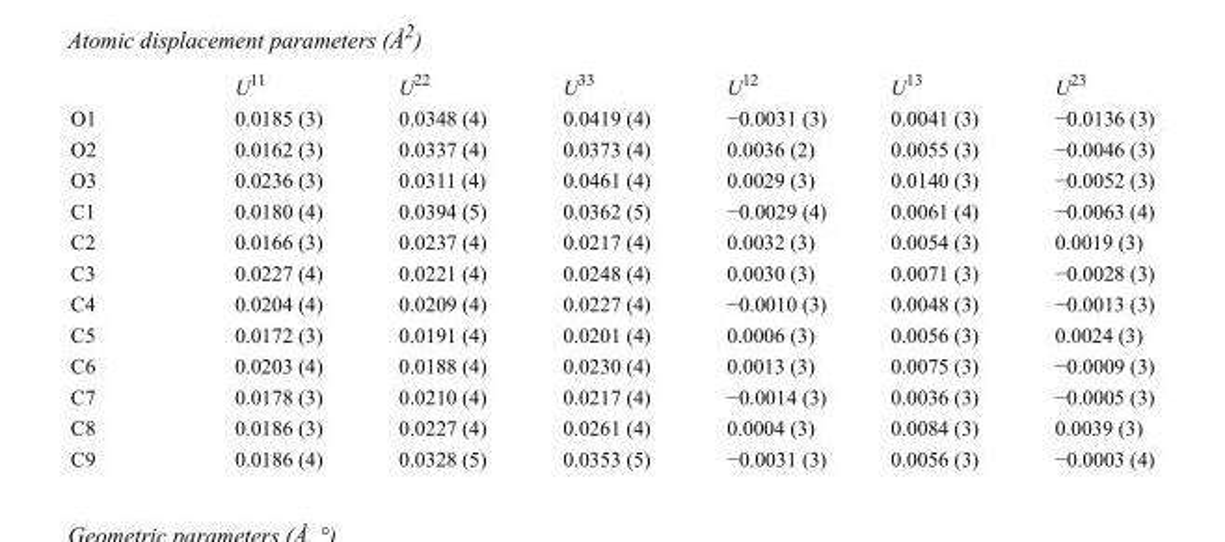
<table><thead><tr><td></td><td>U<sup>11</sup></td><td>U<sup>22</sup></td><td>U<sup>33</sup></td><td>U<sup>12</sup></td><td>U<sup>13</sup></td><td>U<sup>23</sup></td></tr></thead><tbody><tr><td>O1</td><td>0.0185 (3)</td><td>0.0348 (4)</td><td>0.0419 (4)</td><td>−0.0031 (3)</td><td>0.0041 (3)</td><td>−0.0136 (3)</td></tr><tr><td>O2</td><td>0.0162 (3)</td><td>0.0337 (4)</td><td>0.0373 (4)</td><td>0.0036 (2)</td><td>0.0055 (3)</td><td>−0.0046 (3)</td></tr><tr><td>O3</td><td>0.0236 (3)</td><td>0.0311 (4)</td><td>0.0461 (4)</td><td>0.0029 (3)</td><td>0.0140 (3)</td><td>−0.0052 (3)</td></tr><tr><td>C1</td><td>0.0180 (4)</td><td>0.0394 (5)</td><td>0.0362 (5)</td><td>−0.0029 (4)</td><td>0.0061 (4)</td><td>−0.0063 (4)</td></tr><tr><td>C2</td><td>0.0166 (3)</td><td>0.0237 (4)</td><td>0.0217 (4)</td><td>0.0032 (3)</td><td>0.0054 (3)</td><td>0.0019 (3)</td></tr><tr><td>C3</td><td>0.0227 (4)</td><td>0.0221 (4)</td><td>0.0248 (4)</td><td>0.0030 (3)</td><td>0.0071 (3)</td><td>−0.0028 (3)</td></tr><tr><td>C4</td><td>0.0204 (4)</td><td>0.0209 (4)</td><td>0.0227 (4)</td><td>−0.0010 (3)</td><td>0.0048 (3)</td><td>−0.0013 (3)</td></tr><tr><td>C5</td><td>0.0172 (3)</td><td>0.0191 (4)</td><td>0.0201 (4)</td><td>0.0006 (3)</td><td>0.0056 (3)</td><td>0.0024 (3)</td></tr><tr><td>C6</td><td>0.0203 (4)</td><td>0.0188 (4)</td><td>0.0230 (4)</td><td>0.0013 (3)</td><td>0.0075 (3)</td><td>−0.0009 (3)</td></tr><tr><td>C7</td><td>0.0178 (3)</td><td>0.0210 (4)</td><td>0.0217 (4)</td><td>−0.0014 (3)</td><td>0.0036 (3)</td><td>−0.0005 (3)</td></tr><tr><td>C8</td><td>0.0186 (3)</td><td>0.0227 (4)</td><td>0.0261 (4)</td><td>0.0004 (3)</td><td>0.0084 (3)</td><td>0.0039 (3)</td></tr><tr><td>C9</td><td>0.0186 (4)</td><td>0.0328 (5)</td><td>0.0353 (5)</td><td>−0.0031 (3)</td><td>0.0056 (3)</td><td>−0.0003 (4)</td></tr></tbody></table>